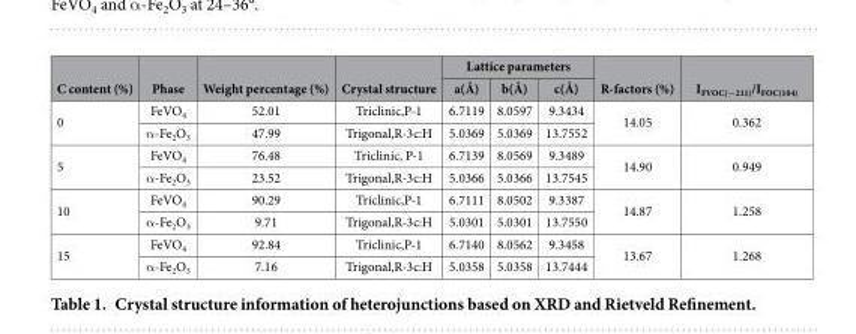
<table><thead><tr><td rowspan="2">C content (%)</td><td rowspan="2">Phase</td><td rowspan="2">Weight percentage (%)</td><td rowspan="2">Crystal structure</td><td colspan="3">Lattice parameters</td><td rowspan="2">R-factors (%)</td><td rowspan="2">I<sub>FVOC(−211)</sub>/I<sub>FOC(104)</sub></td></tr><tr><td>a(Å)</td><td>b(Å)</td><td>c(Å)</td></tr></thead><tbody><tr><td rowspan="2">0</td><td>FeVO<sub>4</sub></td><td>52.01</td><td>Triclinic,P-1</td><td>6.7119</td><td>8.0597</td><td>9.3434</td><td rowspan="2">14.05</td><td rowspan="2">0.362</td></tr><tr><td>α -Fe<sub>2</sub>O<sub>3</sub></td><td>47.99</td><td>Trigonal,R-3c:H</td><td>5.0369</td><td>5.0369</td><td>13.7552</td></tr><tr><td rowspan="2">5</td><td>FeVO<sub>4</sub></td><td>76.48</td><td>Triclinic, P-1</td><td>6.7139</td><td>8.0569</td><td>9.3489</td><td rowspan="2">14.90</td><td rowspan="2">0.949</td></tr><tr><td>α -Fe<sub>2</sub>O<sub>3</sub></td><td>23.52</td><td>Trigonal,R-3c:H</td><td>5.0366</td><td>5.0366</td><td>13.7545</td></tr><tr><td rowspan="2">10</td><td>FeVO<sub>4</sub></td><td>90.29</td><td>Triclinic,P-1</td><td>6.7111</td><td>8.0502</td><td>9.3387</td><td rowspan="2">14.87</td><td rowspan="2">1.258</td></tr><tr><td>α -Fe<sub>2</sub>O<sub>3</sub></td><td>9.71</td><td>Trigonal,R-3c:H</td><td>5.0301</td><td>5.0301</td><td>13.7550</td></tr><tr><td rowspan="2">15</td><td>FeVO<sub>4</sub></td><td>92.84</td><td>Triclinic,P-1</td><td>6.7140</td><td>8.0562</td><td>9.3458</td><td rowspan="2">13.67</td><td rowspan="2">1.268</td></tr><tr><td>α -Fe<sub>2</sub>O<sub>3</sub></td><td>7.16</td><td>Trigonal,R-3c:H</td><td>5.0358</td><td>5.0358</td><td>13.7444</td></tr></tbody></table>